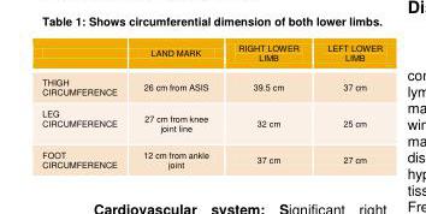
<table><thead><tr><td></td><td>LAND MARK</td><td>RIGHT LOWER LIMB</td><td>LEFT LOWER LIMB</td></tr></thead><tbody><tr><td>THIGH CIRCUMFERENCE</td><td>26 cm from ASIS</td><td>39.5 cm</td><td>37 cm</td></tr><tr><td>LEG CIRCUMFERENCE</td><td>27 cm from knee joint line</td><td>32 cm</td><td>25 cm</td></tr><tr><td>FOOT CIRCUMFERENCE</td><td>12 cm from ankle joint</td><td>37 cm</td><td>27 cm</td></tr></tbody></table>